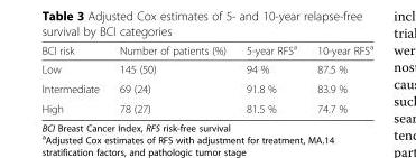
<table><thead><tr><td>BCI risk</td><td>Number of patients (%)</td><td>5-year RFS<sup>a</sup></td><td>10-year RFS<sup>a</sup></td></tr></thead><tbody><tr><td>Low</td><td>145 (50)</td><td>94 %</td><td>87.5 %</td></tr><tr><td>Intermediate</td><td>69 (24)</td><td>91.8 %</td><td>83.9 %</td></tr><tr><td>High</td><td>78 (27)</td><td>81.5 %</td><td>74.7 %</td></tr></tbody></table>